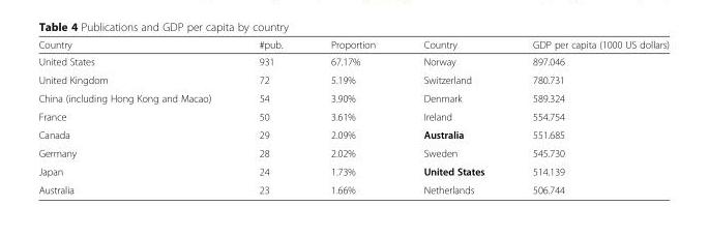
<table><thead><tr><td>Country</td><td>#pub.</td><td>Proportion</td><td>Country</td><td>GDP per capita (1000 US dollars)</td></tr></thead><tbody><tr><td>United States</td><td>931</td><td>67.17%</td><td>Norway</td><td>897.046</td></tr><tr><td>United Kingdom</td><td>72</td><td>5.19%</td><td>Switzerland</td><td>780.731</td></tr><tr><td>China (including Hong Kong and Macao)</td><td>54</td><td>3.90%</td><td>Denmark</td><td>589.324</td></tr><tr><td>France</td><td>50</td><td>3.61%</td><td>Ireland</td><td>554.754</td></tr><tr><td>Canada</td><td>29</td><td>2.09%</td><td>Australia</td><td>551.685</td></tr><tr><td>Germany</td><td>28</td><td>2.02%</td><td>Sweden</td><td>545.730</td></tr><tr><td>Japan</td><td>24</td><td>1.73%</td><td>United States</td><td>514.139</td></tr><tr><td>Australia</td><td>23</td><td>1.66%</td><td>Netherlands</td><td>506.744</td></tr></tbody></table>